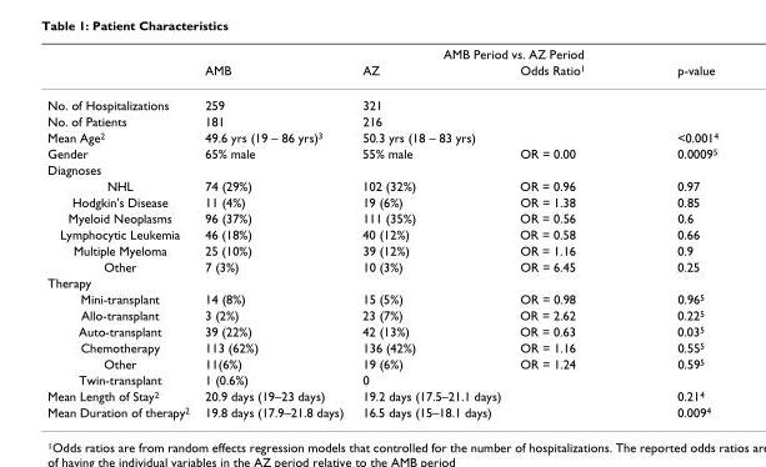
<table><thead><tr><td rowspan="2"></td><td colspan="4">AMB Period vs. AZ Period</td></tr><tr><td>AMB</td><td>AZ</td><td>Odds Ratio<sup>1</sup></td><td>p-value</td></tr></thead><tbody><tr><td>No. of Hospitalizations</td><td>259</td><td>321</td><td></td><td></td></tr><tr><td>No. of Patients</td><td>181</td><td>216</td><td></td><td></td></tr><tr><td>Mean Age<sup>2</sup></td><td>49.6 yrs (19 – 86 yrs)<sup>3</sup></td><td>50.3 yrs (18 – 83 yrs)</td><td></td><td>&lt;0.001<sup>4</sup></td></tr><tr><td>Gender</td><td>65% male</td><td>55% male</td><td>OR = 0.00</td><td>0.0009<sup>5</sup></td></tr><tr><td colspan="5">Diagnoses</td></tr><tr><td>NHL</td><td>74 (29%)</td><td>102 (32%)</td><td>OR = 0.96</td><td>0.97</td></tr><tr><td>Hodgkin&#x27;s Disease</td><td>11 (4%)</td><td>19 (6%)</td><td>OR = 1.38</td><td>0.85</td></tr><tr><td>Myeloid Neoplasms</td><td>96 (37%)</td><td>111 (35%)</td><td>OR = 0.56</td><td>0.6</td></tr><tr><td>Lymphocytic Leukemia</td><td>46 (18%)</td><td>40 (12%)</td><td>OR = 0.58</td><td>0.66</td></tr><tr><td>Multiple Myeloma</td><td>25 (10%)</td><td>39 (12%)</td><td>OR = 1.16</td><td>0.9</td></tr><tr><td>Other</td><td>7 (3%)</td><td>10 (3%)</td><td>OR = 6.45</td><td>0.25</td></tr><tr><td colspan="5">Therapy</td></tr><tr><td>Mini-transplant</td><td>14 (8%)</td><td>15 (5%)</td><td>OR = 0.98</td><td>0.96<sup>5</sup></td></tr><tr><td>Allo-transplant</td><td>3 (2%)</td><td>23 (7%)</td><td>OR = 2.62</td><td>0.22<sup>5</sup></td></tr><tr><td>Auto-transplant</td><td>39 (22%)</td><td>42 (13%)</td><td>OR = 0.63</td><td>0.03<sup>5</sup></td></tr><tr><td>Chemotherapy</td><td>113 (62%)</td><td>136 (42%)</td><td>OR = 1.16</td><td>0.55<sup>5</sup></td></tr><tr><td>Other</td><td>11(6%)</td><td>19 (6%)</td><td>OR = 1.24</td><td>0.59<sup>5</sup></td></tr><tr><td>Twin-transplant</td><td>1 (0.6%)</td><td>0</td><td></td><td></td></tr><tr><td>Mean Length of Stay<sup>2</sup></td><td>20.9 days (19–23 days)</td><td>19.2 days (17.5–21.1 days)</td><td></td><td>0.21<sup>4</sup></td></tr><tr><td>Mean Duration of therapy<sup>2</sup></td><td>19.8 days (17.9–21.8 days)</td><td>16.5 days (15–18.1 days)</td><td></td><td>0.009<sup>4</sup></td></tr></tbody></table>